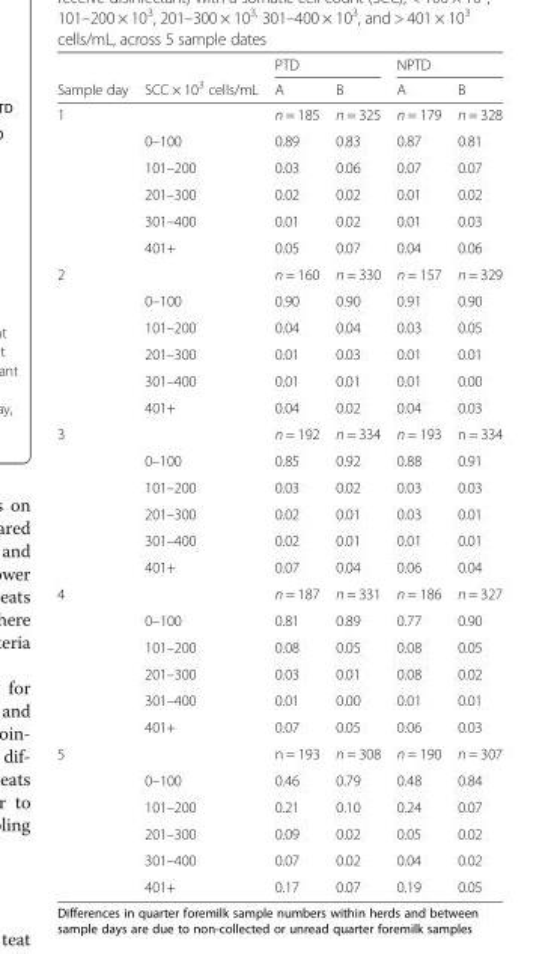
<table><thead><tr><td rowspan="2">Sample day</td><td rowspan="2">SCC × 10<sup>3</sup> cells/mL</td><td colspan="2">PTD</td><td colspan="2">NPTD</td></tr><tr><td>A</td><td>B</td><td>A</td><td>B</td></tr></thead><tbody><tr><td rowspan="6">1</td><td></td><td>n = 185</td><td>n = 325</td><td>n = 179</td><td>n = 328</td></tr><tr><td>0–100</td><td>0.89</td><td>0.83</td><td>0.87</td><td>0.81</td></tr><tr><td>101–200</td><td>0.03</td><td>0.06</td><td>0.07</td><td>0.07</td></tr><tr><td>201–300</td><td>0.02</td><td>0.02</td><td>0.01</td><td>0.02</td></tr><tr><td>301–400</td><td>0.01</td><td>0.02</td><td>0.01</td><td>0.03</td></tr><tr><td>401+</td><td>0.05</td><td>0.07</td><td>0.04</td><td>0.06</td></tr><tr><td rowspan="6">2</td><td></td><td>n = 160</td><td>n = 330</td><td>n = 157</td><td>n = 329</td></tr><tr><td>0–100</td><td>0.90</td><td>0.90</td><td>0.91</td><td>0.90</td></tr><tr><td>101–200</td><td>0.04</td><td>0.04</td><td>0.03</td><td>0.05</td></tr><tr><td>201–300</td><td>0.01</td><td>0.03</td><td>0.01</td><td>0.01</td></tr><tr><td>301–400</td><td>0.01</td><td>0.01</td><td>0.01</td><td>0.00</td></tr><tr><td>401+</td><td>0.04</td><td>0.02</td><td>0.04</td><td>0.03</td></tr><tr><td rowspan="6">3</td><td></td><td>n = 192</td><td>n = 334</td><td>n = 193</td><td>n = 334</td></tr><tr><td>0–100</td><td>0.85</td><td>0.92</td><td>0.88</td><td>0.91</td></tr><tr><td>101–200</td><td>0.03</td><td>0.02</td><td>0.03</td><td>0.03</td></tr><tr><td>201–300</td><td>0.02</td><td>0.01</td><td>0.03</td><td>0.01</td></tr><tr><td>301–400</td><td>0.02</td><td>0.01</td><td>0.01</td><td>0.01</td></tr><tr><td>401+</td><td>0.07</td><td>0.04</td><td>0.06</td><td>0.04</td></tr><tr><td rowspan="6">4</td><td></td><td>n = 187</td><td>n = 331</td><td>n = 186</td><td>n = 327</td></tr><tr><td>0–100</td><td>0.81</td><td>0.89</td><td>0.77</td><td>0.90</td></tr><tr><td>101–200</td><td>0.08</td><td>0.05</td><td>0.08</td><td>0.05</td></tr><tr><td>201–300</td><td>0.03</td><td>0.01</td><td>0.08</td><td>0.02</td></tr><tr><td>301–400</td><td>0.01</td><td>0.00</td><td>0.01</td><td>0.01</td></tr><tr><td>401+</td><td>0.07</td><td>0.05</td><td>0.06</td><td>0.03</td></tr><tr><td rowspan="6">5</td><td></td><td>n = 193</td><td>n = 308</td><td>n = 190</td><td>n = 307</td></tr><tr><td>0–100</td><td>0.46</td><td>0.79</td><td>0.48</td><td>0.84</td></tr><tr><td>101–200</td><td>0.21</td><td>0.10</td><td>0.24</td><td>0.07</td></tr><tr><td>201–300</td><td>0.09</td><td>0.02</td><td>0.05</td><td>0.02</td></tr><tr><td>301–400</td><td>0.07</td><td>0.02</td><td>0.04</td><td>0.02</td></tr><tr><td>401+</td><td>0.17</td><td>0.07</td><td>0.19</td><td>0.05</td></tr></tbody></table>